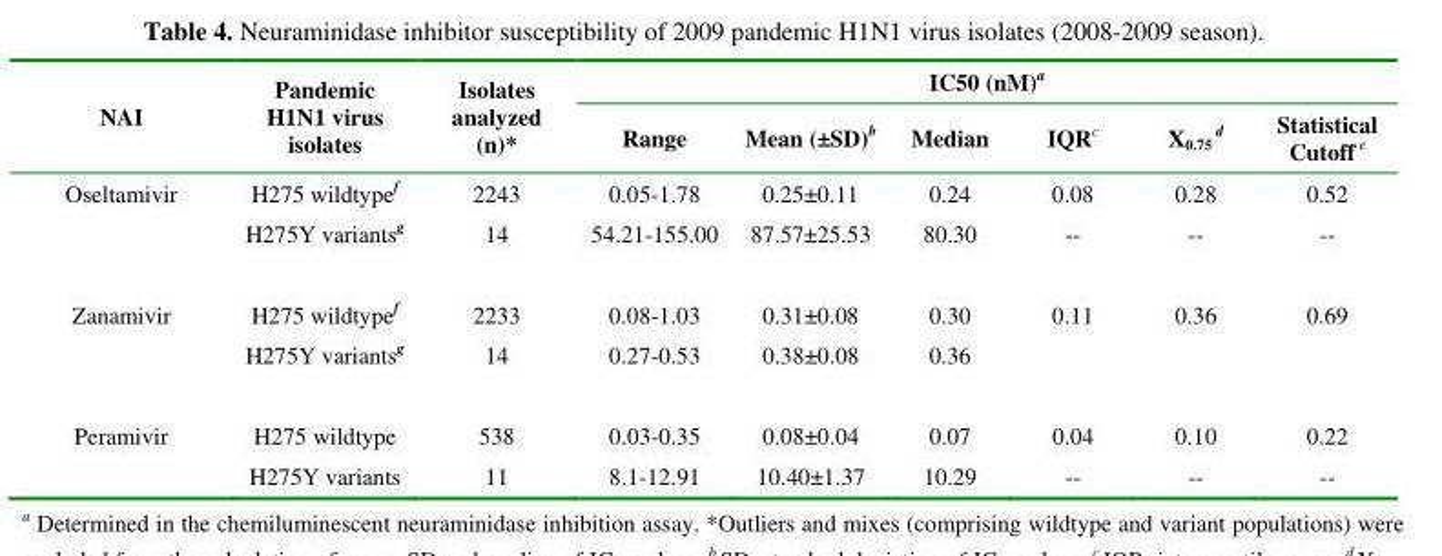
<table><thead><tr><td rowspan="2">NAI</td><td rowspan="2">Pandemic H1N1 virus isolates</td><td rowspan="2">Isolates analyzed (n)*</td><td colspan="6">IC50 (nM)<sup>a</sup></td></tr><tr><td>Range</td><td>Mean (±SD)<sup>b</sup></td><td>Median</td><td>IQR<sup>c</sup></td><td>X<sub>0.75</sub> <sup>d</sup></td><td>Statistical Cutoff <sup>e</sup></td></tr></thead><tbody><tr><td rowspan="2">Oseltamivir</td><td>H275 wildtype<sup>f</sup></td><td>2243</td><td>0.05-1.78</td><td>0.25±0.11</td><td>0.24</td><td>0.08</td><td>0.28</td><td>0.52</td></tr><tr><td>H275Y variants<sup>g</sup></td><td>14</td><td>54.21-155.00</td><td>87.57±25.53</td><td>80.30</td><td>--</td><td>--</td><td>--</td></tr><tr><td rowspan="2">Zanamivir</td><td>H275 wildtype<sup>f</sup></td><td>2233</td><td>0.08-1.03</td><td>0.31±0.08</td><td>0.30</td><td>0.11</td><td>0.36</td><td>0.69</td></tr><tr><td>H275Y variants<sup>g</sup></td><td>14</td><td>0.27-0.53</td><td>0.38±0.08</td><td>0.36</td><td></td><td></td><td></td></tr><tr><td rowspan="2">Peramivir</td><td>H275 wildtype</td><td>538</td><td>0.03-0.35</td><td>0.08±0.04</td><td>0.07</td><td>0.04</td><td>0.10</td><td>0.22</td></tr><tr><td>H275Y variants</td><td>11</td><td>8.1-12.91</td><td>10.40±1.37</td><td>10.29</td><td>--</td><td>--</td><td>--</td></tr></tbody></table>